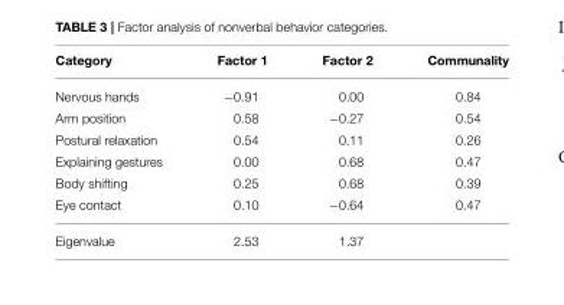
<table><thead><tr><td>Category</td><td>Factor 1</td><td>Factor 2</td><td>Communality</td></tr></thead><tbody><tr><td>Nervous hands</td><td>−0.91</td><td>0.00</td><td>0.84</td></tr><tr><td>Arm position</td><td>0.58</td><td>−0.27</td><td>0.54</td></tr><tr><td>Postural relaxation</td><td>0.54</td><td>0.11</td><td>0.26</td></tr><tr><td>Explaining gestures</td><td>0.00</td><td>0.68</td><td>0.47</td></tr><tr><td>Body shifting</td><td>0.25</td><td>0.68</td><td>0.39</td></tr><tr><td>Eye contact</td><td>0.10</td><td>−0.64</td><td>0.47</td></tr><tr><td>Eigenvalue</td><td>2.53</td><td>1.37</td><td></td></tr></tbody></table>